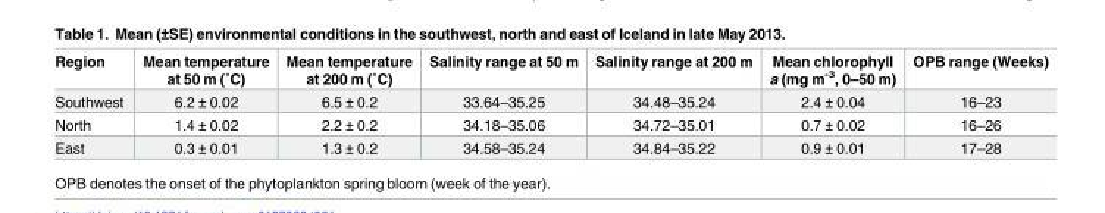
<table><thead><tr><td>Region</td><td>Mean temperature at 50 m (˚C)</td><td>Mean temperature at 200 m (˚C)</td><td>Salinity range at 50 m</td><td>Salinity range at 200 m</td><td>Mean chlorophyll a (mg m<sup>-3</sup>, 0–50 m)</td><td>OPB range (Weeks)</td></tr></thead><tbody><tr><td>Southwest</td><td>6.2 ± 0.02</td><td>6.5 ± 0.2</td><td>33.64–35.25</td><td>34.48–35.24</td><td>2.4 ± 0.04</td><td>16–23</td></tr><tr><td>North</td><td>1.4 ± 0.02</td><td>2.2 ± 0.2</td><td>34.18–35.06</td><td>34.72–35.01</td><td>0.7 ± 0.02</td><td>16–26</td></tr><tr><td>East</td><td>0.3 ± 0.01</td><td>1.3 ± 0.2</td><td>34.58–35.24</td><td>34.84–35.22</td><td>0.9 ± 0.01</td><td>17–28</td></tr></tbody></table>